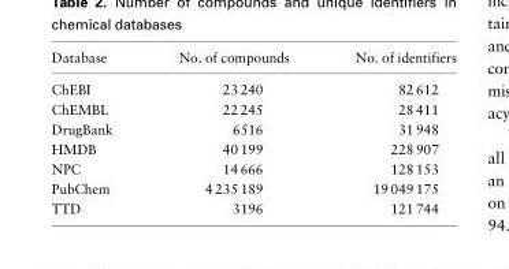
<table><thead><tr><td>Database</td><td>No. of compounds</td><td>No. of identifiers</td></tr></thead><tbody><tr><td>ChEBI</td><td>23 240</td><td>82 612</td></tr><tr><td>ChEMBL</td><td>22 245</td><td>28 411</td></tr><tr><td>DrugBank</td><td>6516</td><td>31 948</td></tr><tr><td>HMDB</td><td>40 199</td><td>228 907</td></tr><tr><td>NPC</td><td>14 666</td><td>128 153</td></tr><tr><td>PubChem</td><td>4 235 189</td><td>19 049 175</td></tr><tr><td>TTD</td><td>3196</td><td>121 744</td></tr></tbody></table>